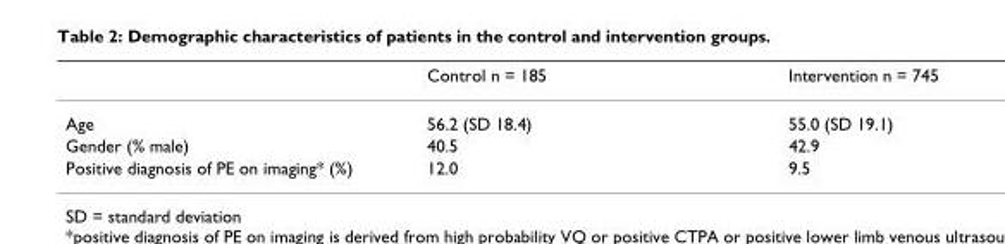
<table><thead><tr><td></td><td>Control n = 185</td><td>Intervention n = 745</td></tr></thead><tbody><tr><td>Age</td><td>56.2 (SD 18.4)</td><td>55.0 (SD 19.1)</td></tr><tr><td>Gender (% male)</td><td>40.5</td><td>42.9</td></tr><tr><td>Positive diagnosis of PE on imaging* (%)</td><td>12.0</td><td>9.5</td></tr></tbody></table>